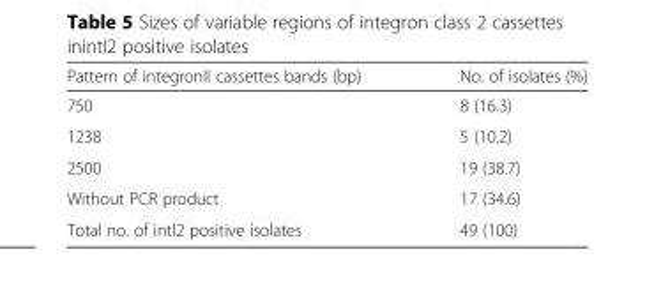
<table><thead><tr><td>Pattern of integronII cassettes bands (bp)</td><td>No. of isolates (%)</td></tr></thead><tbody><tr><td>750</td><td>8 (16.3)</td></tr><tr><td>1238</td><td>5 (10.2)</td></tr><tr><td>2500</td><td>19 (38.7)</td></tr><tr><td>Without PCR product</td><td>17 (34.6)</td></tr><tr><td>Total no. of intI2 positive isolates</td><td>49 (100)</td></tr></tbody></table>